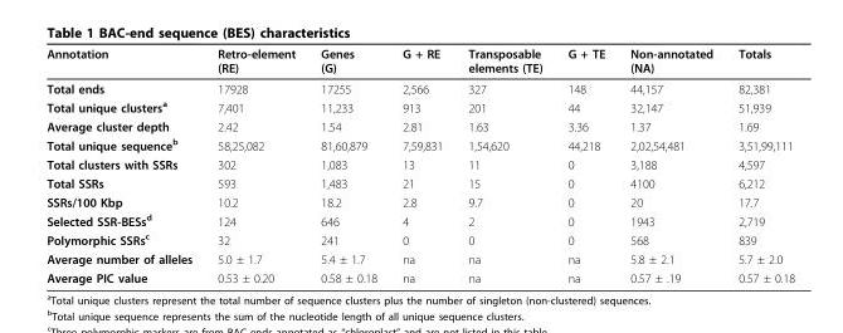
<table><thead><tr><td>Annotation</td><td>Retro-element (RE)</td><td>Genes (G)</td><td>G + RE</td><td>Transposable elements (TE)</td><td>G + TE</td><td>Non-annotated (NA)</td><td>Totals</td></tr></thead><tbody><tr><td>Total ends</td><td>17928</td><td>17255</td><td>2,566</td><td>327</td><td>148</td><td>44,157</td><td>82,381</td></tr><tr><td>Total unique clusters<sup>a</sup></td><td>7,401</td><td>11,233</td><td>913</td><td>201</td><td>44</td><td>32,147</td><td>51,939</td></tr><tr><td>Average cluster depth</td><td>2.42</td><td>1.54</td><td>2.81</td><td>1.63</td><td>3.36</td><td>1.37</td><td>1.69</td></tr><tr><td>Total unique sequence<sup>b</sup></td><td>58,25,082</td><td>81,60,879</td><td>7,59,831</td><td>1,54,620</td><td>44,218</td><td>2,02,54,481</td><td>3,51,99,111</td></tr><tr><td>Total clusters with SSRs</td><td>302</td><td>1,083</td><td>13</td><td>11</td><td>0</td><td>3,188</td><td>4,597</td></tr><tr><td>Total SSRs</td><td>593</td><td>1,483</td><td>21</td><td>15</td><td>0</td><td>4100</td><td>6,212</td></tr><tr><td>SSRs/100 Kbp</td><td>10.2</td><td>18.2</td><td>2.8</td><td>9.7</td><td>0</td><td>20</td><td>17.7</td></tr><tr><td>Selected SSR-BESs<sup>d</sup></td><td>124</td><td>646</td><td>4</td><td>2</td><td>0</td><td>1943</td><td>2,719</td></tr><tr><td>Polymorphic SSRs<sup>c</sup></td><td>32</td><td>241</td><td>0</td><td>0</td><td>0</td><td>568</td><td>839</td></tr><tr><td>Average number of alleles</td><td>5.0 ± 1.7</td><td>5.4 ± 1.7</td><td>na</td><td>na</td><td>na</td><td>5.8 ± 2.1</td><td>5.7 ± 2.0</td></tr><tr><td>Average PIC value</td><td>0.53 ± 0.20</td><td>0.58 ± 0.18</td><td>na</td><td>na</td><td>na</td><td>0.57 ± .19</td><td>0.57 ± 0.18</td></tr></tbody></table>